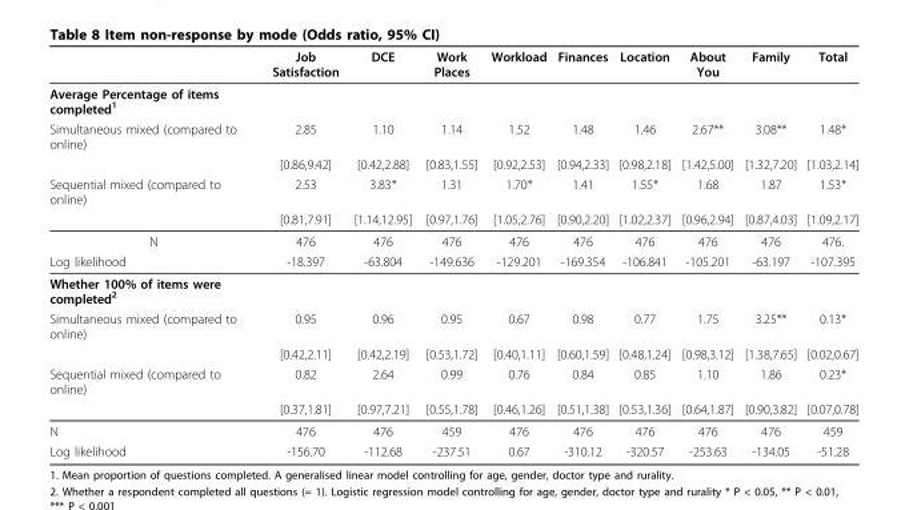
<table><thead><tr><td></td><td>Job Satisfaction</td><td>DCE</td><td>Work Places</td><td>Workload</td><td>Finances</td><td>Location</td><td>About You</td><td>Family</td><td>Total</td></tr></thead><tbody><tr><td colspan="10">Average Percentage of items completed<sup>1</sup></td></tr><tr><td rowspan="2">Simultaneous mixed (compared to online)</td><td>2.85</td><td>1.10</td><td>1.14</td><td>1.52</td><td>1.48</td><td>1.46</td><td>2.67**</td><td>3.08**</td><td>1.48*</td></tr><tr><td>[0.86,9.42]</td><td>[0.42,2.88]</td><td>[0.83,1.55]</td><td>[0.92,2.53]</td><td>[0.94,2.33]</td><td>[0.98,2.18]</td><td>[1.42,5.00]</td><td>[1.32,7.20]</td><td>[1.03,2.14]</td></tr><tr><td rowspan="2">Sequential mixed (compared to online)</td><td>2.53</td><td>3.83*</td><td>1.31</td><td>1.70*</td><td>1.41</td><td>1.55*</td><td>1.68</td><td>1.87</td><td>1.53*</td></tr><tr><td>[0.81,7.91]</td><td>[1.14,12.95]</td><td>[0.97,1.76]</td><td>[1.05,2.76]</td><td>[0.90,2.20]</td><td>[1.02,2.37]</td><td>[0.96,2.94]</td><td>[0.87,4.03]</td><td>[1.09,2.17]</td></tr><tr><td>N</td><td>476</td><td>476</td><td>476</td><td>476</td><td>476</td><td>476</td><td>476</td><td>476</td><td>476.</td></tr><tr><td>Log likelihood</td><td>-18.397</td><td>-63.804</td><td>-149.636</td><td>-129.201</td><td>-169.354</td><td>-106.841</td><td>-105.201</td><td>-63.197</td><td>-107.395</td></tr><tr><td colspan="10">Whether 100% of items were completed<sup>2</sup></td></tr><tr><td rowspan="2">Simultaneous mixed (compared to online)</td><td>0.95</td><td>0.96</td><td>0.95</td><td>0.67</td><td>0.98</td><td>0.77</td><td>1.75</td><td>3.25**</td><td>0.13*</td></tr><tr><td>[0.42,2.11]</td><td>[0.42,2.19]</td><td>[0.53,1.72]</td><td>[0.40,1.11]</td><td>[0.60,1.59]</td><td>[0.48,1.24]</td><td>[0.98,3.12]</td><td>[1.38,7.65]</td><td>[0.02,0.67]</td></tr><tr><td rowspan="2">Sequential mixed (compared to online)</td><td>0.82</td><td>2.64</td><td>0.99</td><td>0.76</td><td>0.84</td><td>0.85</td><td>1.10</td><td>1.86</td><td>0.23*</td></tr><tr><td>[0.37,1.81]</td><td>[0.97,7.21]</td><td>[0.55,1.78]</td><td>[0.46,1.26]</td><td>[0.51,1.38]</td><td>[0.53,1.36]</td><td>[0.64,1.87]</td><td>[0.90,3.82]</td><td>[0.07,0.78]</td></tr><tr><td>N</td><td>476</td><td>476</td><td>459</td><td>476</td><td>476</td><td>476</td><td>476</td><td>476</td><td>459</td></tr><tr><td>Log likelihood</td><td>-156.70</td><td>-112.68</td><td>-237.51</td><td>0.67</td><td>-310.12</td><td>-320.57</td><td>-253.63</td><td>-134.05</td><td>-51.28</td></tr></tbody></table>